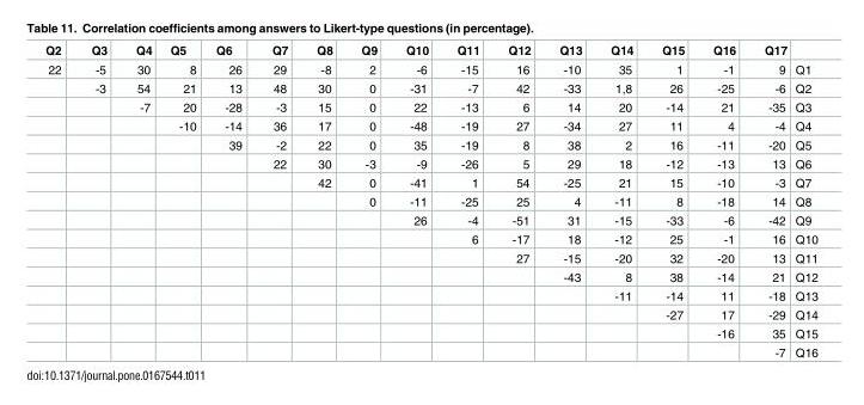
<table><thead><tr><td>Q2</td><td>Q3</td><td>Q4</td><td>Q5</td><td>Q6</td><td>Q7</td><td>Q8</td><td>Q9</td><td>Q10</td><td>Q11</td><td>Q12</td><td>Q13</td><td>Q14</td><td>Q15</td><td>Q16</td><td>Q17</td><td></td></tr></thead><tbody><tr><td rowspan="16">22</td><td>-5</td><td>30</td><td>8</td><td>26</td><td>29</td><td>-8</td><td>2</td><td>-6</td><td>-15</td><td>16</td><td>-10</td><td>35</td><td>1</td><td>-1</td><td>9</td><td>Q1</td></tr><tr><td>-3</td><td>54</td><td>21</td><td>13</td><td>48</td><td>30</td><td>0</td><td>-31</td><td>-7</td><td>42</td><td>-33</td><td>1,8</td><td>26</td><td>-25</td><td>-6</td><td>Q2</td></tr><tr><td></td><td>-7</td><td>20</td><td>-28</td><td>-3</td><td>15</td><td>0</td><td>22</td><td>-13</td><td>6</td><td>14</td><td>20</td><td>-14</td><td>21</td><td>-35</td><td>Q3</td></tr><tr><td></td><td></td><td>-10</td><td>-14</td><td>36</td><td>17</td><td>0</td><td>-48</td><td>-19</td><td>27</td><td>-34</td><td>27</td><td>11</td><td>4</td><td>-4</td><td>Q4</td></tr><tr><td></td><td></td><td></td><td>39</td><td>-2</td><td>22</td><td>0</td><td>35</td><td>-19</td><td>8</td><td>38</td><td>2</td><td>16</td><td>-11</td><td>-20</td><td>Q5</td></tr><tr><td></td><td></td><td></td><td></td><td>22</td><td>30</td><td>-3</td><td>-9</td><td>-26</td><td>5</td><td>29</td><td>18</td><td>-12</td><td>-13</td><td>13</td><td>Q6</td></tr><tr><td></td><td></td><td></td><td></td><td></td><td>42</td><td>0</td><td>-41</td><td>1</td><td>54</td><td>-25</td><td>21</td><td>15</td><td>-10</td><td>-3</td><td>Q7</td></tr><tr><td></td><td></td><td></td><td></td><td></td><td></td><td>0</td><td>-11</td><td>-25</td><td>25</td><td>4</td><td>-11</td><td>8</td><td>-18</td><td>14</td><td>Q8</td></tr><tr><td></td><td></td><td></td><td></td><td></td><td></td><td></td><td>26</td><td>-4</td><td>-51</td><td>31</td><td>-15</td><td>-33</td><td>-6</td><td>-42</td><td>Q9</td></tr><tr><td></td><td></td><td></td><td></td><td></td><td></td><td></td><td></td><td>6</td><td>-17</td><td>18</td><td>-12</td><td>25</td><td>-1</td><td>16</td><td>Q10</td></tr><tr><td></td><td></td><td></td><td></td><td></td><td></td><td></td><td></td><td></td><td>27</td><td>-15</td><td>-20</td><td>32</td><td>-20</td><td>13</td><td>Q11</td></tr><tr><td></td><td></td><td></td><td></td><td></td><td></td><td></td><td></td><td></td><td></td><td>-43</td><td>8</td><td>38</td><td>-14</td><td>21</td><td>Q12</td></tr><tr><td></td><td></td><td></td><td></td><td></td><td></td><td></td><td></td><td></td><td></td><td></td><td>-11</td><td>-14</td><td>11</td><td>-18</td><td>Q13</td></tr><tr><td></td><td></td><td></td><td></td><td></td><td></td><td></td><td></td><td></td><td></td><td></td><td></td><td>-27</td><td>17</td><td>-29</td><td>Q14</td></tr><tr><td></td><td></td><td></td><td></td><td></td><td></td><td></td><td></td><td></td><td></td><td></td><td></td><td></td><td>-16</td><td>35</td><td>Q15</td></tr><tr><td></td><td></td><td></td><td></td><td></td><td></td><td></td><td></td><td></td><td></td><td></td><td></td><td></td><td></td><td>-7</td><td>Q16</td></tr></tbody></table>